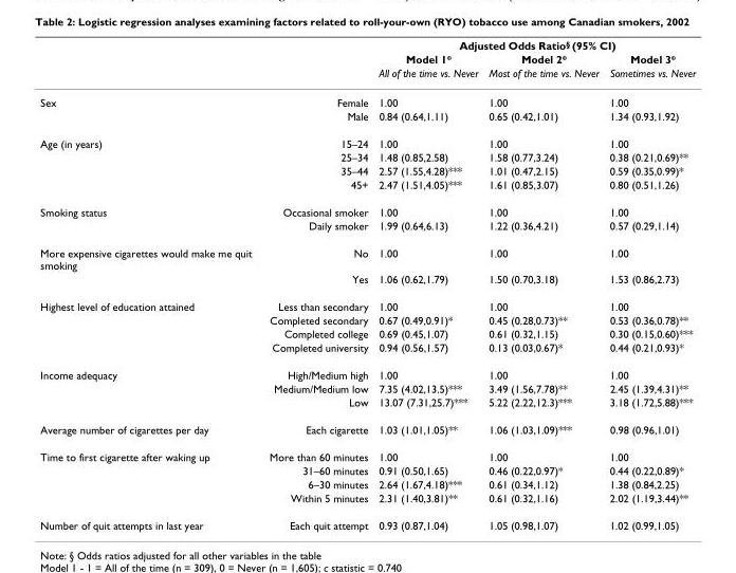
<table><thead><tr><td rowspan="3"></td><td rowspan="3"></td><td colspan="3">Adjusted Odds Ratio<sup>§</sup> (95% CI)</td></tr><tr><td rowspan="2">Model 1<sup>✠</sup> All of the time vs. Never</td><td rowspan="2">Model 2<sup>✠</sup> Most of the time vs. Never</td><td rowspan="2">Model 3<sup>✠</sup> Sometimes vs. Never</td></tr><tr></tr></thead><tbody><tr><td rowspan="2">Sex</td><td>Female</td><td>1.00</td><td>1.00</td><td>1.00</td></tr><tr><td>Male</td><td>0.84 (0.64,1.11)</td><td>0.65 (0.42,1.01)</td><td>1.34 (0.93,1.92)</td></tr><tr><td rowspan="4">Age (in years)</td><td>15–24</td><td>1.00</td><td>1.00</td><td>1.00</td></tr><tr><td>25–34</td><td>1.48 (0.85,2.58)</td><td>1.58 (0.77,3.24)</td><td>0.38 (0.21,0.69)**</td></tr><tr><td>35–44</td><td>2.57 (1.55,4.28)***</td><td>1.01 (0.47,2.15)</td><td>0.59 (0.35,0.99)*</td></tr><tr><td>45+</td><td>2.47 (1.51,4.05)***</td><td>1.61 (0.85,3.07)</td><td>0.80 (0.51,1.26)</td></tr><tr><td rowspan="2">Smoking status</td><td>Occasional smoker</td><td>1.00</td><td>1.00</td><td>1.00</td></tr><tr><td>Daily smoker</td><td>1.99 (0.64,6.13)</td><td>1.22 (0.36,4.21)</td><td>0.57 (0.29,1.14)</td></tr><tr><td rowspan="2">More expensive cigarettes would make me quit smoking</td><td>No</td><td>1.00</td><td>1.00</td><td>1.00</td></tr><tr><td>Yes</td><td>1.06 (0.62,1.79)</td><td>1.50 (0.70,3.18)</td><td>1.53 (0.86,2.73)</td></tr><tr><td rowspan="4">Highest level of education attained</td><td>Less than secondary</td><td>1.00</td><td>1.00</td><td>1.00</td></tr><tr><td>Completed secondary</td><td>0.67 (0.49,0.91)*</td><td>0.45 (0.28,0.73)**</td><td>0.53 (0.36,0.78)**</td></tr><tr><td>Completed college</td><td>0.69 (0.45,1.07)</td><td>0.61 (0.32,1.15)</td><td>0.30 (0.15,0.60)***</td></tr><tr><td>Completed university</td><td>0.94 (0.56,1.57)</td><td>0.13 (0.03,0.67)*</td><td>0.44 (0.21,0.93)*</td></tr><tr><td rowspan="3">Income adequacy</td><td>High/Medium high</td><td>1.00</td><td>1.00</td><td>1.00</td></tr><tr><td>Medium/Medium low</td><td>7.35 (4.02,13.5)***</td><td>3.49 (1.56,7.78)**</td><td>2.45 (1.39,4.31)**</td></tr><tr><td>Low</td><td>13.07 (7.31,25.7)***</td><td>5.22 (2.22,12.3)***</td><td>3.18 (1.72,5.88)***</td></tr><tr><td>Average number of cigarettes per day</td><td>Each cigarette</td><td>1.03 (1.01,1.05)**</td><td>1.06 (1.03,1.09)***</td><td>0.98 (0.96,1.01)</td></tr><tr><td rowspan="4">Time to first cigarette after waking up</td><td>More than 60 minutes</td><td>1.00</td><td>1.00</td><td>1.00</td></tr><tr><td>31–60 minutes</td><td>0.91 (0.50,1.65)</td><td>0.46 (0.22,0.97)*</td><td>0.44 (0.22,0.89)*</td></tr><tr><td>6–30 minutes</td><td>2.64 (1.67,4.18)***</td><td>0.61 (0.34,1.12)</td><td>1.38 (0.84,2.25)</td></tr><tr><td>Within 5 minutes</td><td>2.31 (1.40,3.81)**</td><td>0.61 (0.32,1.16)</td><td>2.02 (1.19,3.44)**</td></tr><tr><td>Number of quit attempts in last year</td><td>Each quit attempt</td><td>0.93 (0.87,1.04)</td><td>1.05 (0.98,1.07)</td><td>1.02 (0.99,1.05)</td></tr></tbody></table>